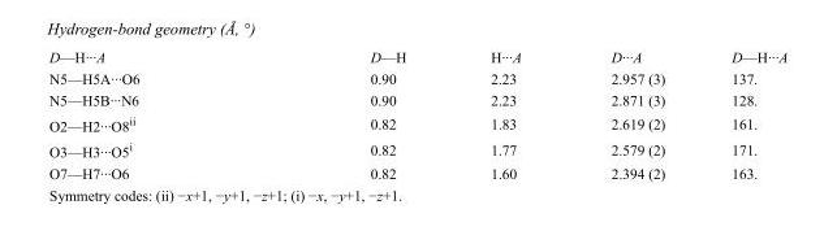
<table><tbody><tr><td>D—H···A</td><td>D—H</td><td>H···A</td><td>D···A</td><td>D—H···A</td></tr><tr><td>N5—H5A···O6</td><td>0.90</td><td>2.23</td><td>2.957 (3)</td><td>137.</td></tr><tr><td>N5—H5B···N6</td><td>0.90</td><td>2.23</td><td>2.871 (3)</td><td>128.</td></tr><tr><td>O2—H2···O8<sup>ii</sup></td><td>0.82</td><td>1.83</td><td>2.619 (2)</td><td>161.</td></tr><tr><td>O3—H3···O5<sup>i</sup></td><td>0.82</td><td>1.77</td><td>2.579 (2)</td><td>171.</td></tr><tr><td>O7—H7···O6</td><td>0.82</td><td>1.60</td><td>2.394 (2)</td><td>163.</td></tr></tbody></table>